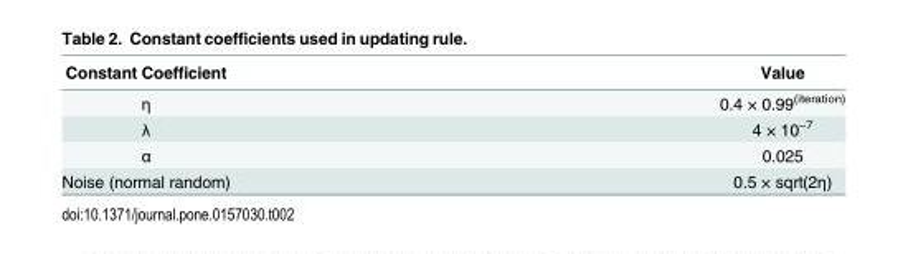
<table><thead><tr><td>Constant Coefficient</td><td>Value</td></tr></thead><tbody><tr><td>η</td><td>0.4 × 0.99<sup>(iteration)</sup></td></tr><tr><td>λ</td><td>4 × 10<sup>−7</sup></td></tr><tr><td>α</td><td>0.025</td></tr><tr><td>Noise (normal random)</td><td>0.5 × sqrt(2η)</td></tr></tbody></table>